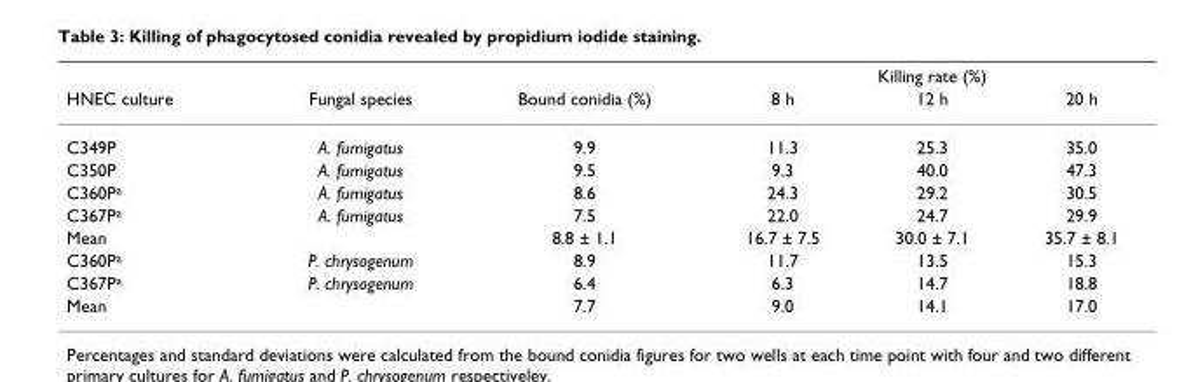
<table><thead><tr><td rowspan="2">HNEC culture</td><td rowspan="2">Fungal species</td><td rowspan="2">Bound conidia (%)</td><td colspan="3">Killing rate (%)</td></tr><tr><td>8 h</td><td>12 h</td><td>20 h</td></tr></thead><tbody><tr><td>C349P</td><td>A. fumigatus</td><td>9.9</td><td>11.3</td><td>25.3</td><td>35.0</td></tr><tr><td>C350P</td><td>A. fumigatus</td><td>9.5</td><td>9.3</td><td>40.0</td><td>47.3</td></tr><tr><td>C360P<sup>a</sup></td><td>A. fumigatus</td><td>8.6</td><td>24.3</td><td>29.2</td><td>30.5</td></tr><tr><td>C367P<sup>a</sup></td><td>A. fumigatus</td><td>7.5</td><td>22.0</td><td>24.7</td><td>29.9</td></tr><tr><td>Mean</td><td></td><td>8.8 ± 1.1</td><td>16.7 ± 7.5</td><td>30.0 ± 7.1</td><td>35.7 ± 8.1</td></tr><tr><td>C360P<sup>a</sup></td><td>P. chrysogenum</td><td>8.9</td><td>11.7</td><td>13.5</td><td>15.3</td></tr><tr><td>C367P<sup>a</sup></td><td>P. chrysogenum</td><td>6.4</td><td>6.3</td><td>14.7</td><td>18.8</td></tr><tr><td>Mean</td><td></td><td>7.7</td><td>9.0</td><td>14.1</td><td>17.0</td></tr></tbody></table>